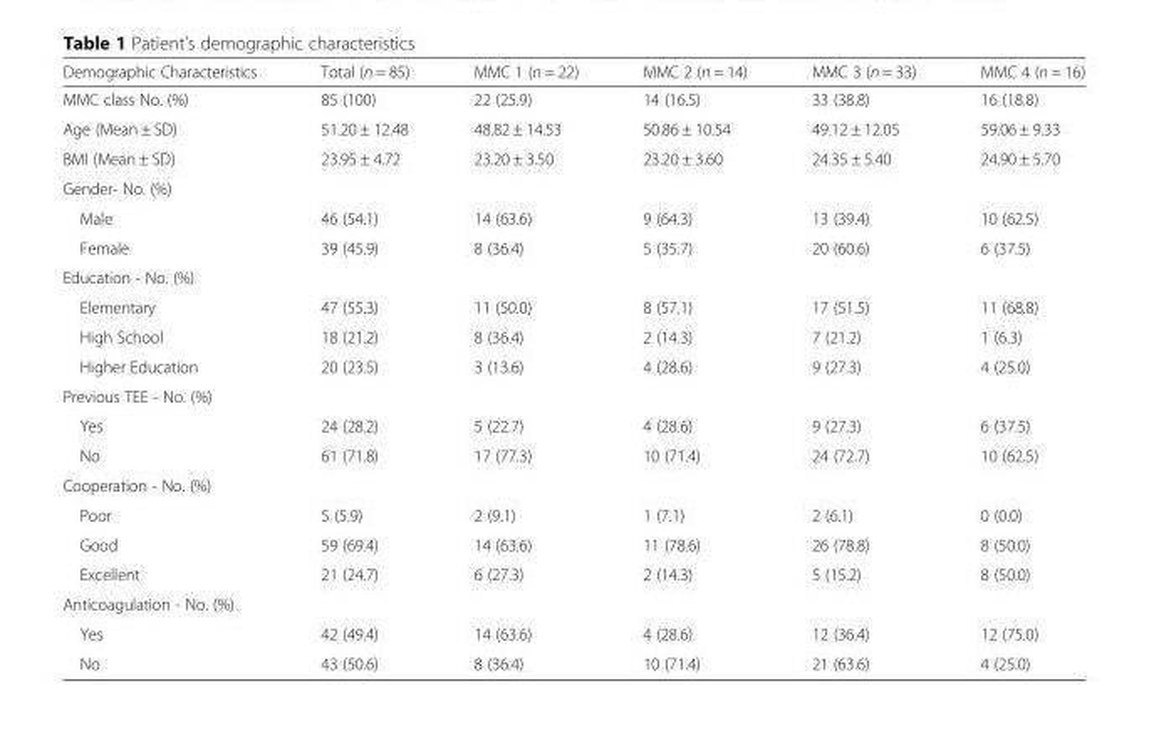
<table><thead><tr><td>Demographic Characteristics</td><td>Total (n = 85)</td><td>MMC 1 (n = 22)</td><td>MMC 2 (n = 14)</td><td>MMC 3 (n = 33)</td><td>MMC 4 (n = 16)</td></tr></thead><tbody><tr><td>MMC class No. (%)</td><td>85 (100)</td><td>22 (25.9)</td><td>14 (16.5)</td><td>33 (38.8)</td><td>16 (18.8)</td></tr><tr><td>Age (Mean ± SD)</td><td>51.20 ± 12.48</td><td>48.82 ± 14.53</td><td>50.86 ± 10.54</td><td>49.12 ± 12.05</td><td>59.06 ± 9.33</td></tr><tr><td>BMI (Mean ± SD)</td><td>23.95 ± 4.72</td><td>23.20 ± 3.50</td><td>23.20 ± 3.60</td><td>24.35 ± 5.40</td><td>24.90 ± 5.70</td></tr><tr><td colspan="6">Gender- No. (%)</td></tr><tr><td>Male</td><td>46 (54.1)</td><td>14 (63.6)</td><td>9 (64.3)</td><td>13 (39.4)</td><td>10 (62.5)</td></tr><tr><td>Female</td><td>39 (45.9)</td><td>8 (36.4)</td><td>5 (35.7)</td><td>20 (60.6)</td><td>6 (37.5)</td></tr><tr><td colspan="6">Education - No. (%)</td></tr><tr><td>Elementary</td><td>47 (55.3)</td><td>11 (50.0)</td><td>8 (57.1)</td><td>17 (51.5)</td><td>11 (68.8)</td></tr><tr><td>High School</td><td>18 (21.2)</td><td>8 (36.4)</td><td>2 (14.3)</td><td>7 (21.2)</td><td>1 (6.3)</td></tr><tr><td>Higher Education</td><td>20 (23.5)</td><td>3 (13.6)</td><td>4 (28.6)</td><td>9 (27.3)</td><td>4 (25.0)</td></tr><tr><td colspan="6">Previous TEE - No. (%)</td></tr><tr><td>Yes</td><td>24 (28.2)</td><td>5 (22.7)</td><td>4 (28.6)</td><td>9 (27.3)</td><td>6 (37.5)</td></tr><tr><td>No</td><td>61 (71.8)</td><td>17 (77.3)</td><td>10 (71.4)</td><td>24 (72.7)</td><td>10 (62.5)</td></tr><tr><td colspan="6">Cooperation - No. (%)</td></tr><tr><td>Poor</td><td>5 (5.9)</td><td>2 (9.1)</td><td>1 (7.1)</td><td>2 (6.1)</td><td>0 (0.0)</td></tr><tr><td>Good</td><td>59 (69.4)</td><td>14 (63.6)</td><td>11 (78.6)</td><td>26 (78.8)</td><td>8 (50.0)</td></tr><tr><td>Excellent</td><td>21 (24.7)</td><td>6 (27.3)</td><td>2 (14.3)</td><td>5 (15.2)</td><td>8 (50.0)</td></tr><tr><td colspan="6">Anticoagulation - No. (%)</td></tr><tr><td>Yes</td><td>42 (49.4)</td><td>14 (63.6)</td><td>4 (28.6)</td><td>12 (36.4)</td><td>12 (75.0)</td></tr><tr><td>No</td><td>43 (50.6)</td><td>8 (36.4)</td><td>10 (71.4)</td><td>21 (63.6)</td><td>4 (25.0)</td></tr></tbody></table>